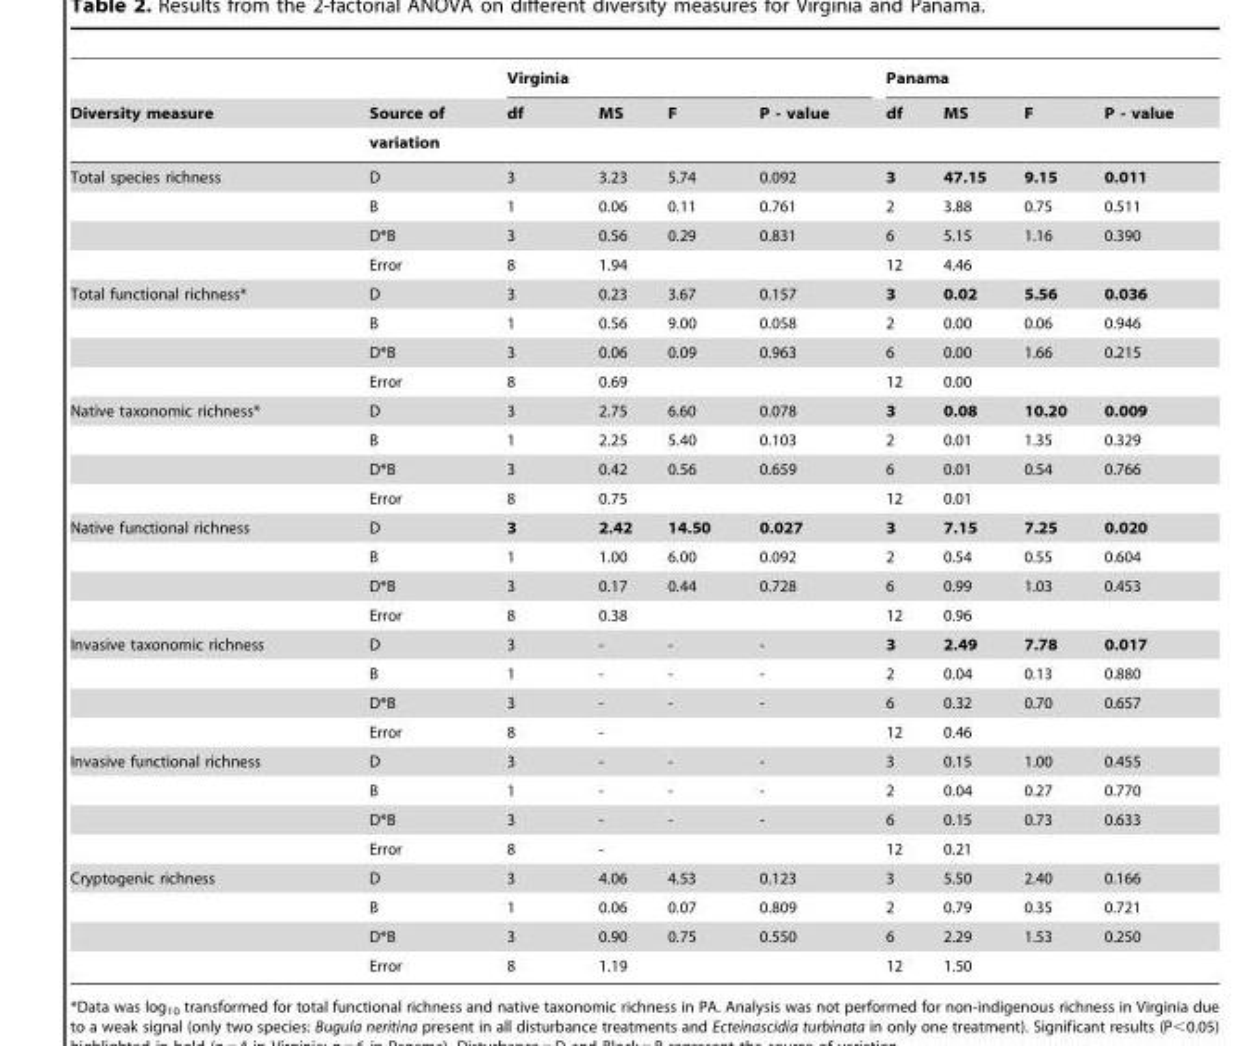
<table><thead><tr><td rowspan="3">Diversity measure</td><td rowspan="3">Source of variation</td><td colspan="4">Virginia</td><td colspan="4">Panama</td></tr><tr><td rowspan="2">df</td><td rowspan="2">MS</td><td rowspan="2">F</td><td rowspan="2">P - value</td><td rowspan="2">df</td><td rowspan="2">MS</td><td rowspan="2">F</td><td rowspan="2">P - value</td></tr><tr></tr></thead><tbody><tr><td rowspan="4">Total species richness</td><td>D</td><td>3</td><td>3.23</td><td>5.74</td><td>0.092</td><td>3</td><td>47.15</td><td>9.15</td><td>0.011</td></tr><tr><td>B</td><td>1</td><td>0.06</td><td>0.11</td><td>0.761</td><td>2</td><td>3.88</td><td>0.75</td><td>0.511</td></tr><tr><td>D*B</td><td>3</td><td>0.56</td><td>0.29</td><td>0.831</td><td>6</td><td>5.15</td><td>1.16</td><td>0.390</td></tr><tr><td>Error</td><td>8</td><td>1.94</td><td></td><td></td><td>12</td><td>4.46</td><td></td><td></td></tr><tr><td rowspan="4">Total functional richness*</td><td>D</td><td>3</td><td>0.23</td><td>3.67</td><td>0.157</td><td>3</td><td>0.02</td><td>5.56</td><td>0.036</td></tr><tr><td>B</td><td>1</td><td>0.56</td><td>9.00</td><td>0.058</td><td>2</td><td>0.00</td><td>0.06</td><td>0.946</td></tr><tr><td>D*B</td><td>3</td><td>0.06</td><td>0.09</td><td>0.963</td><td>6</td><td>0.00</td><td>1.66</td><td>0.215</td></tr><tr><td>Error</td><td>8</td><td>0.69</td><td></td><td></td><td>12</td><td>0.00</td><td></td><td></td></tr><tr><td rowspan="4">Native taxonomic richness*</td><td>D</td><td>3</td><td>2.75</td><td>6.60</td><td>0.078</td><td>3</td><td>0.08</td><td>10.20</td><td>0.009</td></tr><tr><td>B</td><td>1</td><td>2.25</td><td>5.40</td><td>0.103</td><td>2</td><td>0.01</td><td>1.35</td><td>0.329</td></tr><tr><td>D*B</td><td>3</td><td>0.42</td><td>0.56</td><td>0.659</td><td>6</td><td>0.01</td><td>0.54</td><td>0.766</td></tr><tr><td>Error</td><td>8</td><td>0.75</td><td></td><td></td><td>12</td><td>0.01</td><td></td><td></td></tr><tr><td rowspan="4">Native functional richness</td><td>D</td><td>3</td><td>2.42</td><td>14.50</td><td>0.027</td><td>3</td><td>7.15</td><td>7.25</td><td>0.020</td></tr><tr><td>B</td><td>1</td><td>1.00</td><td>6.00</td><td>0.092</td><td>2</td><td>0.54</td><td>0.55</td><td>0.604</td></tr><tr><td>D*B</td><td>3</td><td>0.17</td><td>0.44</td><td>0.728</td><td>6</td><td>0.99</td><td>1.03</td><td>0.453</td></tr><tr><td>Error</td><td>8</td><td>0.38</td><td></td><td></td><td>12</td><td>0.96</td><td></td><td></td></tr><tr><td rowspan="4">Invasive taxonomic richness</td><td>D</td><td>3</td><td>-</td><td>-</td><td>-</td><td>3</td><td>2.49</td><td>7.78</td><td>0.017</td></tr><tr><td>B</td><td>1</td><td>-</td><td>-</td><td>-</td><td>2</td><td>0.04</td><td>0.13</td><td>0.880</td></tr><tr><td>D*B</td><td>3</td><td>-</td><td>-</td><td>-</td><td>6</td><td>0.32</td><td>0.70</td><td>0.657</td></tr><tr><td>Error</td><td>8</td><td>-</td><td></td><td></td><td>12</td><td>0.46</td><td></td><td></td></tr><tr><td rowspan="4">Invasive functional richness</td><td>D</td><td>3</td><td>-</td><td>-</td><td>-</td><td>3</td><td>0.15</td><td>1.00</td><td>0.455</td></tr><tr><td>B</td><td>1</td><td>-</td><td>-</td><td>-</td><td>2</td><td>0.04</td><td>0.27</td><td>0.770</td></tr><tr><td>D*B</td><td>3</td><td>-</td><td>-</td><td>-</td><td>6</td><td>0.15</td><td>0.73</td><td>0.633</td></tr><tr><td>Error</td><td>8</td><td>-</td><td></td><td></td><td>12</td><td>0.21</td><td></td><td></td></tr><tr><td rowspan="4">Cryptogenic richness</td><td>D</td><td>3</td><td>4.06</td><td>4.53</td><td>0.123</td><td>3</td><td>5.50</td><td>2.40</td><td>0.166</td></tr><tr><td>B</td><td>1</td><td>0.06</td><td>0.07</td><td>0.809</td><td>2</td><td>0.79</td><td>0.35</td><td>0.721</td></tr><tr><td>D*B</td><td>3</td><td>0.90</td><td>0.75</td><td>0.550</td><td>6</td><td>2.29</td><td>1.53</td><td>0.250</td></tr><tr><td>Error</td><td>8</td><td>1.19</td><td></td><td></td><td>12</td><td>1.50</td><td></td><td></td></tr></tbody></table>